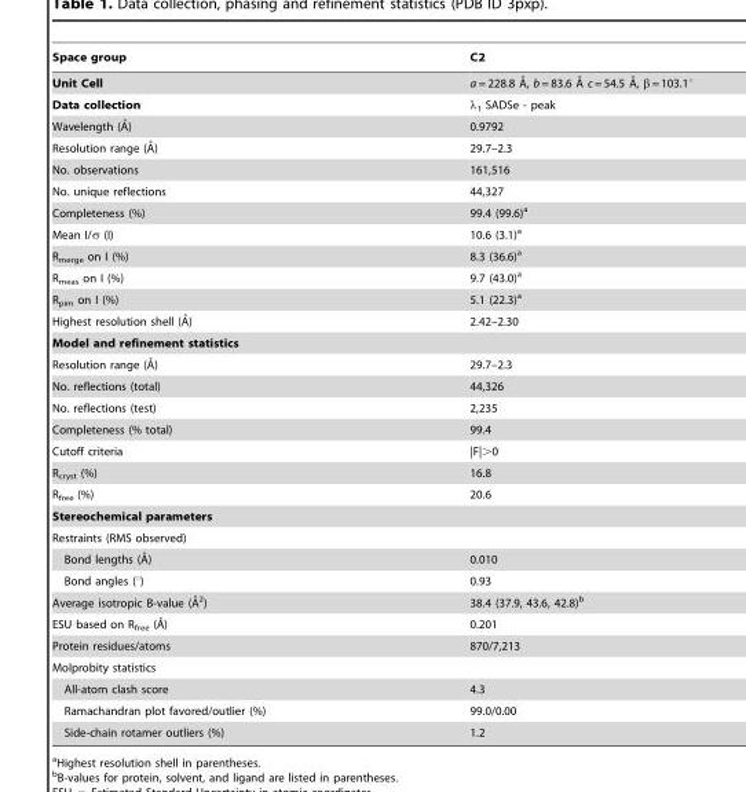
<table><thead><tr><td>Space group</td><td>C2</td></tr></thead><tbody><tr><td>Unit Cell</td><td>a = 228.8 A˚, b = 83.6 A˚ c = 54.5 A˚, b = 103.1u</td></tr><tr><td>Data collection</td><td>λ<sub>1</sub> SADSe - peak</td></tr><tr><td>Wavelength (A˚)</td><td>0.9792</td></tr><tr><td>Resolution range (A˚)</td><td>29.7–2.3</td></tr><tr><td>No. observations</td><td>161,516</td></tr><tr><td>No. unique reflections</td><td>44,327</td></tr><tr><td>Completeness (%)</td><td>99.4 (99.6)<sup>a</sup></td></tr><tr><td>Mean I/σ (I)</td><td>10.6 (3.1)<sup>a</sup></td></tr><tr><td>R<sub>merge</sub> on I (%)</td><td>8.3 (36.6)<sup>a</sup></td></tr><tr><td>R<sub>meas</sub> on I (%)</td><td>9.7 (43.0)<sup>a</sup></td></tr><tr><td>R<sub>pim</sub> on I (%)</td><td>5.1 (22.3)<sup>a</sup></td></tr><tr><td>Highest resolution shell (A˚)</td><td>2.42–2.30</td></tr><tr><td colspan="2">Model and refinement statistics</td></tr><tr><td>Resolution range (A˚)</td><td>29.7–2.3</td></tr><tr><td>No. reflections (total)</td><td>44,326</td></tr><tr><td>No. reflections (test)</td><td>2,235</td></tr><tr><td>Completeness (% total)</td><td>99.4</td></tr><tr><td>Cutoff criteria</td><td>|F|&gt;0</td></tr><tr><td>R<sub>cryst</sub> (%)</td><td>16.8</td></tr><tr><td>R<sub>free</sub> (%)</td><td>20.6</td></tr><tr><td colspan="2">Stereochemical parameters</td></tr><tr><td colspan="2">Restraints (RMS observed)</td></tr><tr><td>Bond lengths (A˚)</td><td>0.010</td></tr><tr><td>Bond angles (°)</td><td>0.93</td></tr><tr><td>Average isotropic B-value (A˚2)</td><td>38.4 (37.9, 43.6, 42.8)<sup>b</sup></td></tr><tr><td>ESU based on Rfree (A˚)</td><td>0.201</td></tr><tr><td>Protein residues/atoms</td><td>870/7,213</td></tr><tr><td colspan="2">Molprobity statistics</td></tr><tr><td>All-atom clash score</td><td>4.3</td></tr><tr><td>Ramachandran plot favored/outlier (%)</td><td>99.0/0.00</td></tr><tr><td>Side-chain rotamer outliers (%)</td><td>1.2</td></tr></tbody></table>